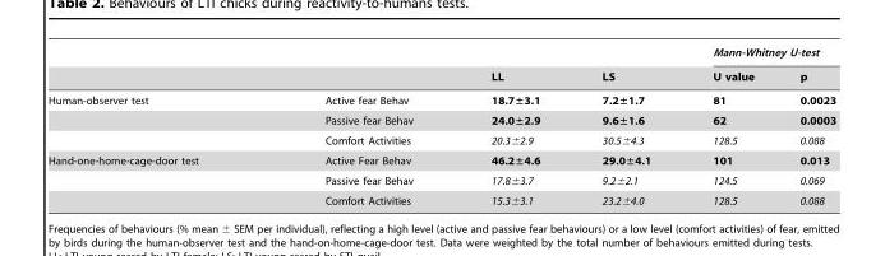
<table><thead><tr><td rowspan="2"></td><td rowspan="2"></td><td rowspan="2">LL</td><td rowspan="2">LS</td><td colspan="2">Mann-Whitney U-test</td></tr><tr><td>U value</td><td>p</td></tr></thead><tbody><tr><td rowspan="3">Human-observer test</td><td>Active fear Behav</td><td>18.7±3.1</td><td>7.2±1.7</td><td>81</td><td>0.0023</td></tr><tr><td>Passive fear Behav</td><td>24.0±2.9</td><td>9.6±1.6</td><td>62</td><td>0.0003</td></tr><tr><td>Comfort Activities</td><td>20.3±2.9</td><td>30.5±4.3</td><td>128.5</td><td>0.088</td></tr><tr><td rowspan="3">Hand-one-home-cage-door test</td><td>Active Fear Behav</td><td>46.2±4.6</td><td>29.0±4.1</td><td>101</td><td>0.013</td></tr><tr><td>Passive fear Behav</td><td>17.8±3.7</td><td>9.2±2.1</td><td>124.5</td><td>0.069</td></tr><tr><td>Comfort Activities</td><td>15.3±3.1</td><td>23.2±4.0</td><td>128.5</td><td>0.088</td></tr></tbody></table>